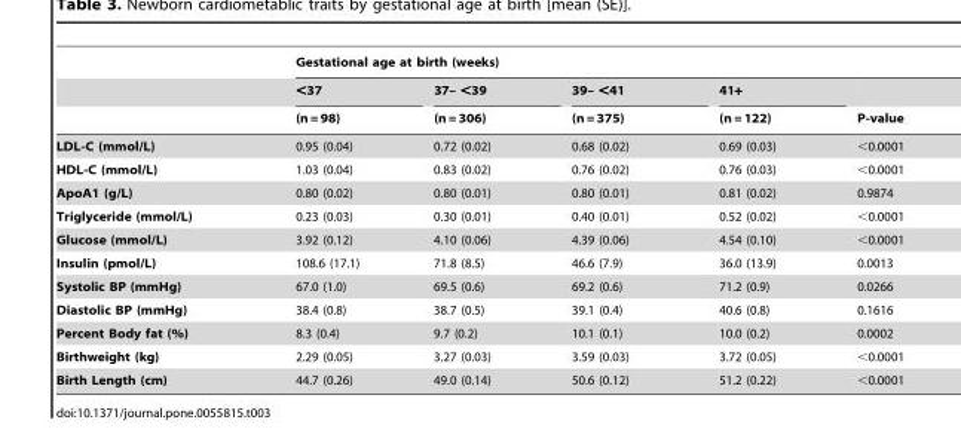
<table><thead><tr><td rowspan="3"></td><td colspan="5">Gestational age at birth (weeks)</td></tr><tr><td rowspan="2">&lt;37 (n = 98)</td><td rowspan="2">37– &lt;39 (n = 306)</td><td rowspan="2">39– &lt;41 (n = 375)</td><td rowspan="2">41+ (n = 122)</td><td rowspan="2">P-value</td></tr><tr></tr></thead><tbody><tr><td>LDL-C (mmol/L)</td><td>0.95 (0.04)</td><td>0.72 (0.02)</td><td>0.68 (0.02)</td><td>0.69 (0.03)</td><td>&lt;0.0001</td></tr><tr><td>HDL-C (mmol/L)</td><td>1.03 (0.04)</td><td>0.83 (0.02)</td><td>0.76 (0.02)</td><td>0.76 (0.03)</td><td>&lt;0.0001</td></tr><tr><td>ApoA1 (g/L)</td><td>0.80 (0.02)</td><td>0.80 (0.01)</td><td>0.80 (0.01)</td><td>0.81 (0.02)</td><td>0.9874</td></tr><tr><td>Triglyceride (mmol/L)</td><td>0.23 (0.03)</td><td>0.30 (0.01)</td><td>0.40 (0.01)</td><td>0.52 (0.02)</td><td>&lt;0.0001</td></tr><tr><td>Glucose (mmol/L)</td><td>3.92 (0.12)</td><td>4.10 (0.06)</td><td>4.39 (0.06)</td><td>4.54 (0.10)</td><td>&lt;0.0001</td></tr><tr><td>Insulin (pmol/L)</td><td>108.6 (17.1)</td><td>71.8 (8.5)</td><td>46.6 (7.9)</td><td>36.0 (13.9)</td><td>0.0013</td></tr><tr><td>Systolic BP (mmHg)</td><td>67.0 (1.0)</td><td>69.5 (0.6)</td><td>69.2 (0.6)</td><td>71.2 (0.9)</td><td>0.0266</td></tr><tr><td>Diastolic BP (mmHg)</td><td>38.4 (0.8)</td><td>38.7 (0.5)</td><td>39.1 (0.4)</td><td>40.6 (0.8)</td><td>0.1616</td></tr><tr><td>Percent Body fat (%)</td><td>8.3 (0.4)</td><td>9.7 (0.2)</td><td>10.1 (0.1)</td><td>10.0 (0.2)</td><td>0.0002</td></tr><tr><td>Birthweight (kg)</td><td>2.29 (0.05)</td><td>3.27 (0.03)</td><td>3.59 (0.03)</td><td>3.72 (0.05)</td><td>&lt;0.0001</td></tr><tr><td>Birth Length (cm)</td><td>44.7 (0.26)</td><td>49.0 (0.14)</td><td>50.6 (0.12)</td><td>51.2 (0.22)</td><td>&lt;0.0001</td></tr></tbody></table>